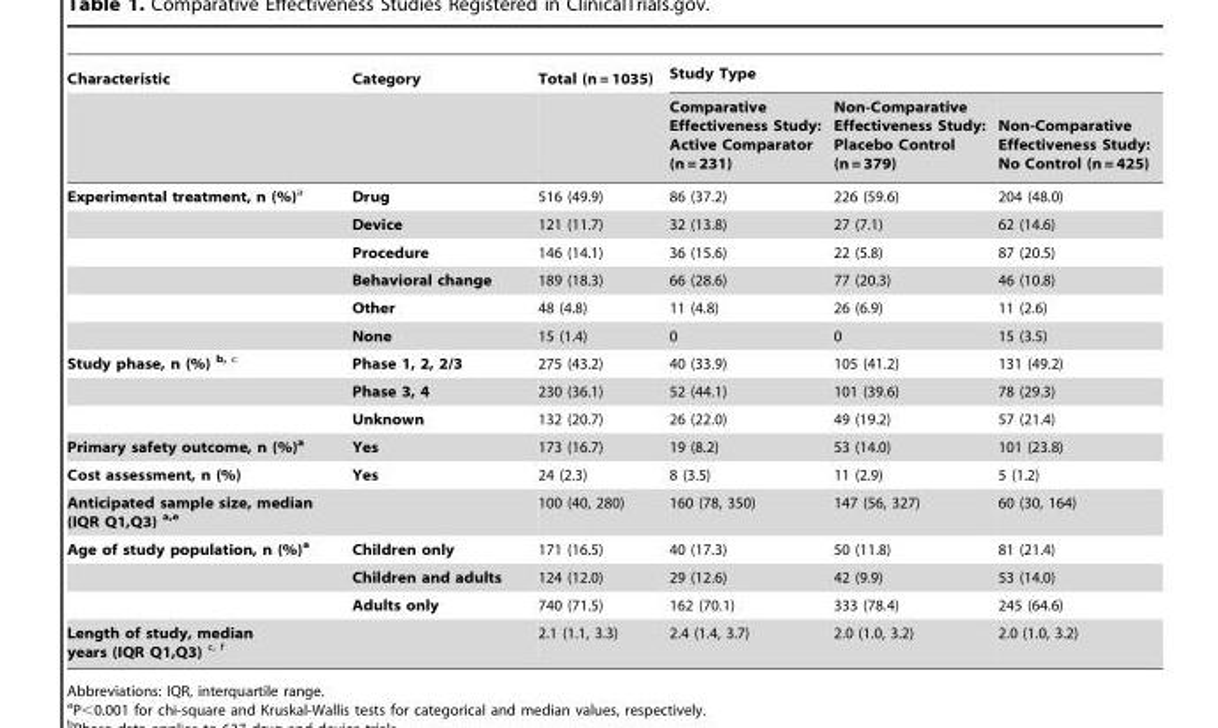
<table><thead><tr><td rowspan="2">Characteristic</td><td rowspan="2">Category</td><td rowspan="2">Total (n = 1035)</td><td colspan="3">Study Type</td></tr><tr><td>Comparative Effectiveness Study: Active Comparator (n = 231)</td><td>Non-Comparative Effectiveness Study: Placebo Control (n = 379)</td><td>Non-Comparative Effectiveness Study: No Control (n = 425)</td></tr></thead><tbody><tr><td rowspan="6">Experimental treatment, n (%)a</td><td>Drug</td><td>516 (49.9)</td><td>86 (37.2)</td><td>226 (59.6)</td><td>204 (48.0)</td></tr><tr><td>Device</td><td>121 (11.7)</td><td>32 (13.8)</td><td>27 (7.1)</td><td>62 (14.6)</td></tr><tr><td>Procedure</td><td>146 (14.1)</td><td>36 (15.6)</td><td>22 (5.8)</td><td>87 (20.5)</td></tr><tr><td>Behavioral change</td><td>189 (18.3)</td><td>66 (28.6)</td><td>77 (20.3)</td><td>46 (10.8)</td></tr><tr><td>Other</td><td>48 (4.8)</td><td>11 (4.8)</td><td>26 (6.9)</td><td>11 (2.6)</td></tr><tr><td>None</td><td>15 (1.4)</td><td>0</td><td>0</td><td>15 (3.5)</td></tr><tr><td rowspan="3">Study phase, n (%) b, c</td><td>Phase 1, 2, 2/3</td><td>275 (43.2)</td><td>40 (33.9)</td><td>105 (41.2)</td><td>131 (49.2)</td></tr><tr><td>Phase 3, 4</td><td>230 (36.1)</td><td>52 (44.1)</td><td>101 (39.6)</td><td>78 (29.3)</td></tr><tr><td>Unknown</td><td>132 (20.7)</td><td>26 (22.0)</td><td>49 (19.2)</td><td>57 (21.4)</td></tr><tr><td>Primary safety outcome, n (%)a</td><td>Yes</td><td>173 (16.7)</td><td>19 (8.2)</td><td>53 (14.0)</td><td>101 (23.8)</td></tr><tr><td>Cost assessment, n (%)</td><td>Yes</td><td>24 (2.3)</td><td>8 (3.5)</td><td>11 (2.9)</td><td>5 (1.2)</td></tr><tr><td>Anticipated sample size, median (IQR Q1,Q3) a,e</td><td></td><td>100 (40, 280)</td><td>160 (78, 350)</td><td>147 (56, 327)</td><td>60 (30, 164)</td></tr><tr><td rowspan="3">Age of study population, n (%)a</td><td>Children only</td><td>171 (16.5)</td><td>40 (17.3)</td><td>50 (11.8)</td><td>81 (21.4)</td></tr><tr><td>Children and adults</td><td>124 (12.0)</td><td>29 (12.6)</td><td>42 (9.9)</td><td>53 (14.0)</td></tr><tr><td>Adults only</td><td>740 (71.5)</td><td>162 (70.1)</td><td>333 (78.4)</td><td>245 (64.6)</td></tr><tr><td>Length of study, median years (IQR Q1,Q3) c, f</td><td></td><td>2.1 (1.1, 3.3)</td><td>2.4 (1.4, 3.7)</td><td>2.0 (1.0, 3.2)</td><td>2.0 (1.0, 3.2)</td></tr></tbody></table>